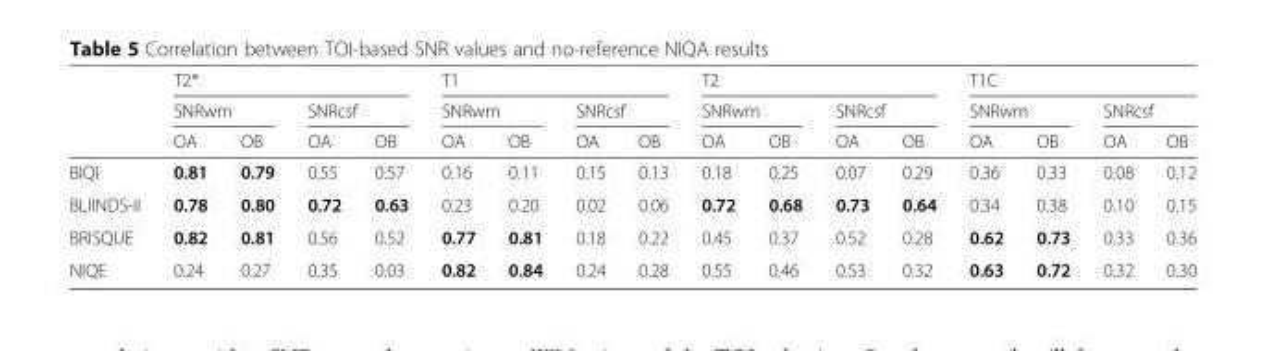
<table><thead><tr><td rowspan="3"></td><td colspan="4">T2*</td><td colspan="4">T1</td><td colspan="4">T2</td><td colspan="4">T1C</td></tr><tr><td colspan="2">SNRwm</td><td colspan="2">SNRcsf</td><td colspan="2">SNRwm</td><td colspan="2">SNRcsf</td><td colspan="2">SNRwm</td><td colspan="2">SNRcsf</td><td colspan="2">SNRwm</td><td colspan="2">SNRcsf</td></tr><tr><td>OA</td><td>OB</td><td>OA</td><td>OB</td><td>OA</td><td>OB</td><td>OA</td><td>OB</td><td>OA</td><td>OB</td><td>OA</td><td>OB</td><td>OA</td><td>OB</td><td>OA</td><td>OB</td></tr></thead><tbody><tr><td>BIQI</td><td>0.81</td><td>0.79</td><td>0.55</td><td>0.57</td><td>0.16</td><td>0.11</td><td>0.15</td><td>0.13</td><td>0.18</td><td>0.25</td><td>0.07</td><td>0.29</td><td>0.36</td><td>0.33</td><td>0.08</td><td>0.12</td></tr><tr><td>BLIINDS-II</td><td>0.78</td><td>0.80</td><td>0.72</td><td>0.63</td><td>0.23</td><td>0.20</td><td>0.02</td><td>0.06</td><td>0.72</td><td>0.68</td><td>0.73</td><td>0.64</td><td>0.34</td><td>0.38</td><td>0.10</td><td>0.15</td></tr><tr><td>BRISQUE</td><td>0.82</td><td>0.81</td><td>0.56</td><td>0.52</td><td>0.77</td><td>0.81</td><td>0.18</td><td>0.22</td><td>0.45</td><td>0.37</td><td>0.52</td><td>0.28</td><td>0.62</td><td>0.73</td><td>0.33</td><td>0.36</td></tr><tr><td>NIQE</td><td>0.24</td><td>0.27</td><td>0.35</td><td>0.03</td><td>0.82</td><td>0.84</td><td>0.24</td><td>0.28</td><td>0.55</td><td>0.46</td><td>0.53</td><td>0.32</td><td>0.63</td><td>0.72</td><td>0.32</td><td>0.30</td></tr></tbody></table>